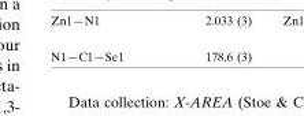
<table><tbody><tr><td>N1—C1—Se1</td><td>178.6 (3)</td></tr></tbody></table>